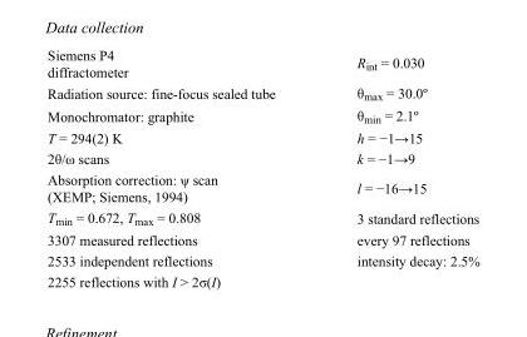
<table><tbody><tr><td>Siemens P4 diffractometer</td><td>R<sub>int</sub> = 0.030</td></tr><tr><td>Radiation source: fine-focus sealed tube</td><td>θ<sub>max</sub> = 30.0º</td></tr><tr><td>Monochromator: graphite</td><td>θ<sub>min</sub> = 2.1º</td></tr><tr><td>T = 294(2) K</td><td>h = −1→15</td></tr><tr><td>2θ/ω scans</td><td>k = −1→9</td></tr><tr><td>Absorption correction: ψ scan (XEMP; Siemens, 1994)</td><td>l = −16→15</td></tr><tr><td>T<sub>min</sub> = 0.672, T<sub>max</sub> = 0.808</td><td>3 standard reflections</td></tr><tr><td>3307 measured reflections</td><td>every 97 reflections</td></tr><tr><td>2533 independent reflections</td><td>intensity decay: 2.5%</td></tr><tr><td>2255 reflections with I &gt; 2σ(I)</td><td></td></tr></tbody></table>